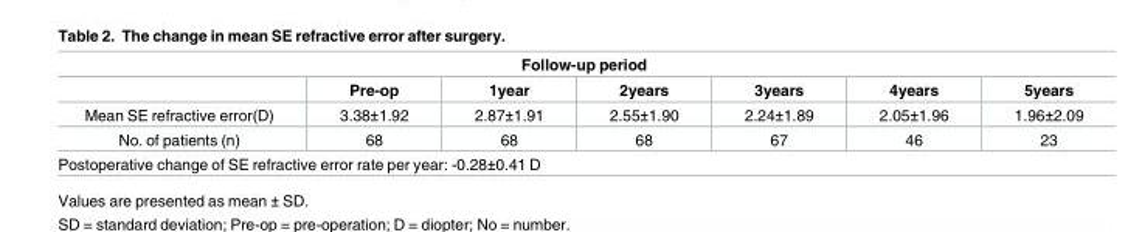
<table><thead><tr><td colspan="7">Follow-up period</td></tr><tr><td></td><td>Pre-op</td><td>1year</td><td>2years</td><td>3years</td><td>4years</td><td>5years</td></tr></thead><tbody><tr><td>Mean SE refractive error(D)</td><td>3.38±1.92</td><td>2.87±1.91</td><td>2.55±1.90</td><td>2.24±1.89</td><td>2.05±1.96</td><td>1.96±2.09</td></tr><tr><td>No. of patients (n)</td><td>68</td><td>68</td><td>68</td><td>67</td><td>46</td><td>23</td></tr><tr><td colspan="7">Postoperative change of SE refractive error rate per year: -0.28±0.41 D</td></tr></tbody></table>